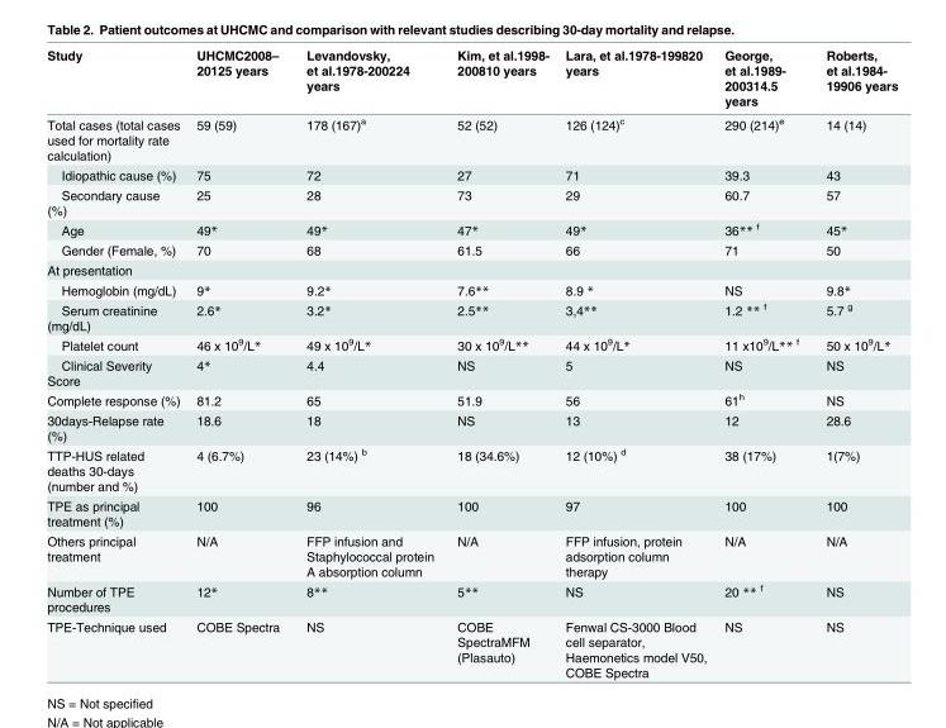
<table><thead><tr><td>Study</td><td>UHCMC2008– 20125 years</td><td>Levandovsky, et al.1978-200224 years</td><td>Kim, et al.1998- 200810 years</td><td>Lara, et al.1978-199820 years</td><td>George, et al.1989- 200314.5 years</td><td>Roberts, et al.1984- 19906 years</td></tr></thead><tbody><tr><td>Total cases (total cases used for mortality rate calculation)</td><td>59 (59)</td><td>178 (167)<sup>a</sup></td><td>52 (52)</td><td>126 (124)<sup>c</sup></td><td>290 (214)<sup>e</sup></td><td>14 (14)</td></tr><tr><td>Idiopathic cause (%)</td><td>75</td><td>72</td><td>27</td><td>71</td><td>39.3</td><td>43</td></tr><tr><td>Secondary cause (%)</td><td>25</td><td>28</td><td>73</td><td>29</td><td>60.7</td><td>57</td></tr><tr><td>Age</td><td>49*</td><td>49*</td><td>47*</td><td>49*</td><td>36** <sup>f</sup></td><td>45*</td></tr><tr><td>Gender (Female, %)</td><td>70</td><td>68</td><td>61.5</td><td>66</td><td>71</td><td>50</td></tr><tr><td colspan="7">At presentation</td></tr><tr><td>Hemoglobin (mg/dL)</td><td>9*</td><td>9.2*</td><td>7.6**</td><td>8.9 *</td><td>NS</td><td>9.8*</td></tr><tr><td>Serum creatinine (mg/dL)</td><td>2.6*</td><td>3.2*</td><td>2.5**</td><td>3,4**</td><td>1.2 ** <sup>f</sup></td><td>5.7 <sup>g</sup></td></tr><tr><td>Platelet count</td><td>46 x 10<sup>9</sup>/L*</td><td>49 x 10<sup>9</sup>/L*</td><td>30 x 10<sup>9</sup>/L**</td><td>44 x 10<sup>9</sup>/L*</td><td>11 x10<sup>9</sup>/L** <sup>f</sup></td><td>50 x 10<sup>9</sup>/L*</td></tr><tr><td>Clinical Severity Score</td><td>4*</td><td>4.4</td><td>NS</td><td>5</td><td>NS</td><td>NS</td></tr><tr><td>Complete response (%)</td><td>81.2</td><td>65</td><td>51.9</td><td>56</td><td>61<sup>h</sup></td><td>NS</td></tr><tr><td>30days-Relapse rate (%)</td><td>18.6</td><td>18</td><td>NS</td><td>13</td><td>12</td><td>28.6</td></tr><tr><td>TTP-HUS related deaths 30-days (number and %)</td><td>4 (6.7%)</td><td>23 (14%) <sup>b</sup></td><td>18 (34.6%)</td><td>12 (10%) <sup>d</sup></td><td>38 (17%)</td><td>1(7%)</td></tr><tr><td>TPE as principal treatment (%)</td><td>100</td><td>96</td><td>100</td><td>97</td><td>100</td><td>100</td></tr><tr><td>Others principal treatment</td><td>N/A</td><td>FFP infusion and Staphylococcal protein A absorption column</td><td>N/A</td><td>FFP infusion, protein adsorption column therapy</td><td>N/A</td><td>N/A</td></tr><tr><td>Number of TPE procedures</td><td>12*</td><td>8**</td><td>5**</td><td>NS</td><td>20 ** <sup>f</sup></td><td>NS</td></tr><tr><td>TPE-Technique used</td><td>COBE Spectra</td><td>NS</td><td>COBE SpectraMFM (Plasauto)</td><td>Fenwal CS-3000 Blood cell separator, Haemonetics model V50, COBE Spectra</td><td>NS</td><td>NS</td></tr></tbody></table>